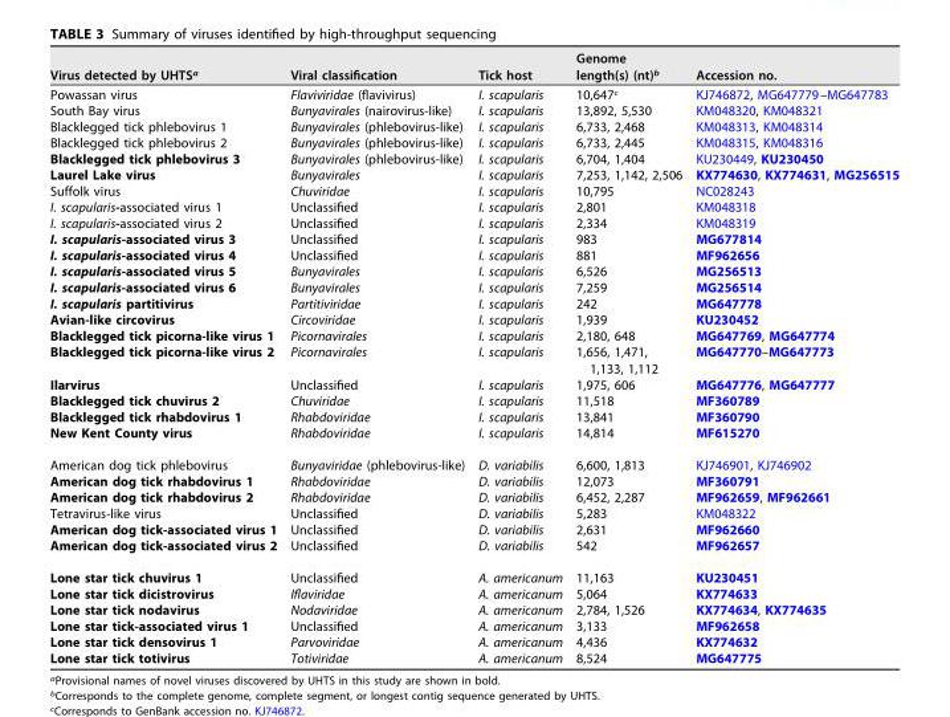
<table><thead><tr><td>Virus detected by UHTS<sup>a</sup></td><td>Viral classification</td><td>Tick host</td><td>Genome length(s) (nt)<sup>b</sup></td><td>Accession no.</td></tr></thead><tbody><tr><td>Powassan virus</td><td>Flaviviridae (flavivirus)</td><td>I. scapularis</td><td>10,647<sup>c</sup></td><td>KJ746872, MG647779–MG647783</td></tr><tr><td>South Bay virus</td><td>Bunyavirales (nairovirus-like)</td><td>I. scapularis</td><td>13,892, 5,530</td><td>KM048320, KM048321</td></tr><tr><td>Blacklegged tick phlebovirus 1</td><td>Bunyavirales (phlebovirus-like)</td><td>I. scapularis</td><td>6,733, 2,468</td><td>KM048313, KM048314</td></tr><tr><td>Blacklegged tick phlebovirus 2</td><td>Bunyavirales (phlebovirus-like)</td><td>I. scapularis</td><td>6,733, 2,445</td><td>KM048315, KM048316</td></tr><tr><td>Blacklegged tick phlebovirus 3</td><td>Bunyavirales (phlebovirus-like)</td><td>I. scapularis</td><td>6,704, 1,404</td><td>KU230449, KU230450</td></tr><tr><td>Laurel Lake virus</td><td>Bunyavirales</td><td>I. scapularis</td><td>7,253, 1,142, 2,506</td><td>KX774630, KX774631, MG256515</td></tr><tr><td>Suffolk virus</td><td>Chuviridae</td><td>I. scapularis</td><td>10,795</td><td>NC028243</td></tr><tr><td>I. scapularis-associated virus 1</td><td>Unclassified</td><td>I. scapularis</td><td>2,801</td><td>KM048318</td></tr><tr><td>I. scapularis-associated virus 2</td><td>Unclassified</td><td>I. scapularis</td><td>2,334</td><td>KM048319</td></tr><tr><td>I. scapularis-associated virus 3</td><td>Unclassified</td><td>I. scapularis</td><td>983</td><td>MG677814</td></tr><tr><td>I. scapularis-associated virus 4</td><td>Unclassified</td><td>I. scapularis</td><td>881</td><td>MF962656</td></tr><tr><td>I. scapularis-associated virus 5</td><td>Bunyavirales</td><td>I. scapularis</td><td>6,526</td><td>MG256513</td></tr><tr><td>I. scapularis-associated virus 6</td><td>Bunyavirales</td><td>I. scapularis</td><td>7,259</td><td>MG256514</td></tr><tr><td>I. scapularis partitivirus</td><td>Partitiviridae</td><td>I. scapularis</td><td>242</td><td>MG647778</td></tr><tr><td>Avian-like circovirus</td><td>Circoviridae</td><td>I. scapularis</td><td>1,939</td><td>KU230452</td></tr><tr><td>Blacklegged tick picorna-like virus 1</td><td>Picornavirales</td><td>I. scapularis</td><td>2,180, 648</td><td>MG647769, MG647774</td></tr><tr><td>Blacklegged tick picorna-like virus 2</td><td>Picornavirales</td><td>I. scapularis</td><td>1,656, 1,471, 1,133, 1,112</td><td>MG647770–MG647773</td></tr><tr><td>Ilarvirus</td><td>Unclassified</td><td>I. scapularis</td><td>1,975, 606</td><td>MG647776, MG647777</td></tr><tr><td>Blacklegged tick chuvirus 2</td><td>Chuviridae</td><td>I. scapularis</td><td>11,518</td><td>MF360789</td></tr><tr><td>Blacklegged tick rhabdovirus 1</td><td>Rhabdoviridae</td><td>I. scapularis</td><td>13,841</td><td>MF360790</td></tr><tr><td>New Kent County virus</td><td>Rhabdoviridae</td><td>I. scapularis</td><td>14,814</td><td>MF615270</td></tr><tr><td>American dog tick phlebovirus</td><td>Bunyaviridae (phlebovirus-like)</td><td>D. variabilis</td><td>6,600, 1,813</td><td>KJ746901, KJ746902</td></tr><tr><td>American dog tick rhabdovirus 1</td><td>Rhabdoviridae</td><td>D. variabilis</td><td>12,073</td><td>MF360791</td></tr><tr><td>American dog tick rhabdovirus 2</td><td>Rhabdoviridae</td><td>D. variabilis</td><td>6,452, 2,287</td><td>MF962659, MF962661</td></tr><tr><td>Tetravirus-like virus</td><td>Unclassified</td><td>D. variabilis</td><td>5,283</td><td>KM048322</td></tr><tr><td>American dog tick-associated virus 1</td><td>Unclassified</td><td>D. variabilis</td><td>2,631</td><td>MF962660</td></tr><tr><td>American dog tick-associated virus 2</td><td>Unclassified</td><td>D. variabilis</td><td>542</td><td>MF962657</td></tr><tr><td>Lone star tick chuvirus 1</td><td>Unclassified</td><td>A. americanum</td><td>11,163</td><td>KU230451</td></tr><tr><td>Lone star tick dicistrovirus</td><td>Iflaviridae</td><td>A. americanum</td><td>5,064</td><td>KX774633</td></tr><tr><td>Lone star tick nodavirus</td><td>Nodaviridae</td><td>A. americanum</td><td>2,784, 1,526</td><td>KX774634, KX774635</td></tr><tr><td>Lone star tick-associated virus 1</td><td>Unclassified</td><td>A. americanum</td><td>3,133</td><td>MF962658</td></tr><tr><td>Lone star tick densovirus 1</td><td>Parvoviridae</td><td>A. americanum</td><td>4,436</td><td>KX774632</td></tr><tr><td>Lone star tick totivirus</td><td>Totiviridae</td><td>A. americanum</td><td>8,524</td><td>MG647775</td></tr></tbody></table>